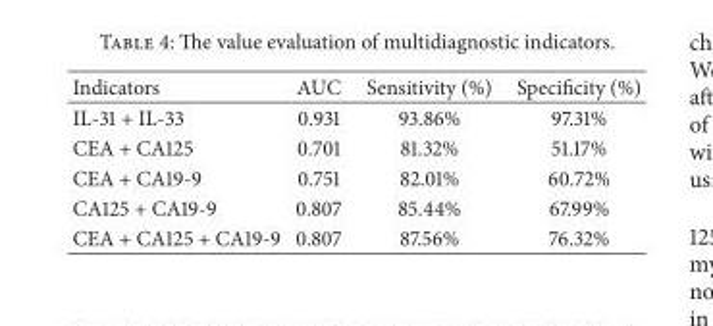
<table><thead><tr><td>Indicators</td><td>AUC</td><td>Sensitivity (%)</td><td>Specificity (%)</td></tr></thead><tbody><tr><td>IL-31 + IL-33</td><td>0.931</td><td>93.86%</td><td>97.31%</td></tr><tr><td>CEA + CA125</td><td>0.701</td><td>81.32%</td><td>51.17%</td></tr><tr><td>CEA + CA19-9</td><td>0.751</td><td>82.01%</td><td>60.72%</td></tr><tr><td>CA125 + CA19-9</td><td>0.807</td><td>85.44%</td><td>67.99%</td></tr><tr><td>CEA + CA125 + CA19-9</td><td>0.807</td><td>87.56%</td><td>76.32%</td></tr></tbody></table>